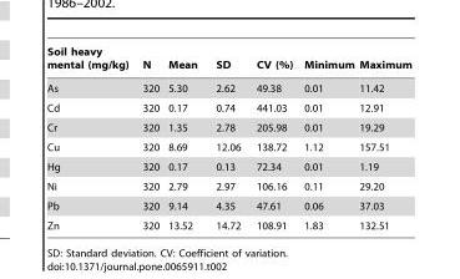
<table><thead><tr><td>Soil heavy mental (mg/kg)</td><td>N</td><td>Mean</td><td>SD</td><td>CV (%)</td><td>Minimum</td><td>Maximum</td></tr></thead><tbody><tr><td>As</td><td>320</td><td>5.30</td><td>2.62</td><td>49.38</td><td>0.01</td><td>11.42</td></tr><tr><td>Cd</td><td>320</td><td>0.17</td><td>0.74</td><td>441.03</td><td>0.01</td><td>12.91</td></tr><tr><td>Cr</td><td>320</td><td>1.35</td><td>2.78</td><td>205.98</td><td>0.01</td><td>19.29</td></tr><tr><td>Cu</td><td>320</td><td>8.69</td><td>12.06</td><td>138.72</td><td>1.12</td><td>157.51</td></tr><tr><td>Hg</td><td>320</td><td>0.17</td><td>0.13</td><td>72.34</td><td>0.01</td><td>1.19</td></tr><tr><td>Ni</td><td>320</td><td>2.79</td><td>2.97</td><td>106.16</td><td>0.11</td><td>29.20</td></tr><tr><td>Pb</td><td>320</td><td>9.14</td><td>4.35</td><td>47.61</td><td>0.06</td><td>37.03</td></tr><tr><td>Zn</td><td>320</td><td>13.52</td><td>14.72</td><td>108.91</td><td>1.83</td><td>132.51</td></tr></tbody></table>